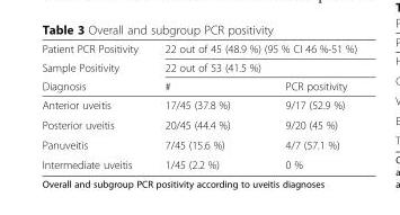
<table><thead><tr><td rowspan="3">Patient PCR Positivity Sample Positivity Diagnosis</td><td rowspan="2" colspan="2">22 out of 45 (48.9 %) (95 % CI 46 %-51 %) 22 out of 53 (41.5 %)</td></tr><tr></tr><tr><td>#</td><td>PCR positivity</td></tr></thead><tbody><tr><td>Anterior uveitis</td><td>17/45 (37.8 %)</td><td>9/17 (52.9 %)</td></tr><tr><td>Posterior uveitis</td><td>20/45 (44.4 %)</td><td>9/20 (45 %)</td></tr><tr><td>Panuveitis</td><td>7/45 (15.6 %)</td><td>4/7 (57.1 %)</td></tr><tr><td>Intermediate uveitis</td><td>1/45 (2.2 %)</td><td>0 %</td></tr></tbody></table>